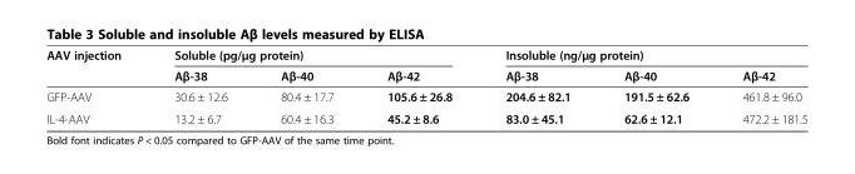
<table><thead><tr><td rowspan="2">AAV injection</td><td colspan="3">Soluble (pg/μg protein)</td><td colspan="3">Insoluble (ng/μg protein)</td></tr><tr><td>Aβ-38</td><td>Aβ-40</td><td>Aβ-42</td><td>Aβ-38</td><td>Aβ-40</td><td>Aβ-42</td></tr></thead><tbody><tr><td>GFP-AAV</td><td>30.6 ± 12.6</td><td>80.4 ± 17.7</td><td>105.6 ± 26.8</td><td>204.6 ± 82.1</td><td>191.5 ± 62.6</td><td>461.8 ± 96.0</td></tr><tr><td>IL-4-AAV</td><td>13.2 ± 6.7</td><td>60.4 ± 16.3</td><td>45.2 ± 8.6</td><td>83.0 ± 45.1</td><td>62.6 ± 12.1</td><td>472.2 ± 181.5</td></tr></tbody></table>